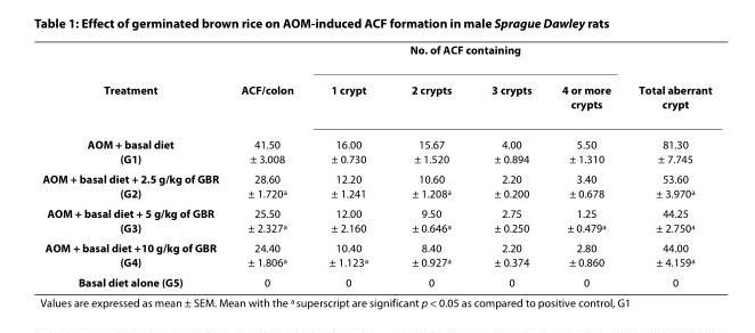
<table><thead><tr><td rowspan="2">Treatment</td><td rowspan="2">ACF/colon</td><td colspan="4">No. of ACF containing</td><td rowspan="2">Total aberrant crypt</td></tr><tr><td>1 crypt</td><td>2 crypts</td><td>3 crypts</td><td>4 or more crypts</td></tr></thead><tbody><tr><td>AOM + basal diet (G1)</td><td>41.50 ± 3.008</td><td>16.00 ± 0.730</td><td>15.67 ± 1.520</td><td>4.00 ± 0.894</td><td>5.50 ± 1.310</td><td>81.30 ± 7.745</td></tr><tr><td>AOM + basal diet + 2.5 g/kg of GBR (G2)</td><td>28.60 ± 1.720<sup>a</sup></td><td>12.20 ± 1.241</td><td>10.60 ± 1.208<sup>a</sup></td><td>2.20 ± 0.200</td><td>3.40 ± 0.678</td><td>53.60 ± 3.970<sup>a</sup></td></tr><tr><td>AOM + basal diet + 5 g/kg of GBR (G3)</td><td>25.50 ± 2.327<sup>a</sup></td><td>12.00 ± 2.160</td><td>9.50 ± 0.646<sup>a</sup></td><td>2.75 ± 0.250</td><td>1.25 ± 0.479<sup>a</sup></td><td>44.25 ± 2.750<sup>a</sup></td></tr><tr><td>AOM + basal diet +10 g/kg of GBR (G4)</td><td>24.40 ± 1.806<sup>a</sup></td><td>10.40 ± 1.123<sup>a</sup></td><td>8.40 ± 0.927<sup>a</sup></td><td>2.20 ± 0.374</td><td>2.80 ± 0.860</td><td>44.00 ± 4.159<sup>a</sup></td></tr><tr><td>Basal diet alone (G5)</td><td>0</td><td>0</td><td>0</td><td>0</td><td>0</td><td>0</td></tr></tbody></table>